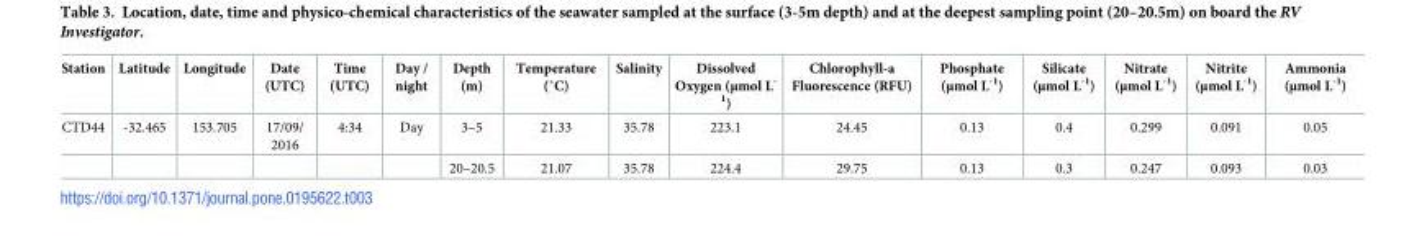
<table><thead><tr><td>Station</td><td>Latitude</td><td>Longitude</td><td>Date (UTC)</td><td>Time (UTC)</td><td>Day / night</td><td>Depth (m)</td><td>Temperature (˚C)</td><td>Salinity</td><td>Dissolved Oxygen (μmol L<sup>- 1</sup>)</td><td>Chlorophyll-a Fluorescence (RFU)</td><td>Phosphate (μmol L<sup>-1</sup>)</td><td>Silicate (μmol L<sup>-1</sup>)</td><td>Nitrate (μmol L<sup>-1</sup>)</td><td>Nitrite (μmol L<sup>-1</sup>)</td><td>Ammonia (μmol L<sup>-1</sup>)</td></tr></thead><tbody><tr><td rowspan="2">CTD44</td><td>-32.465</td><td>153.705</td><td>17/09/ 2016</td><td>4:34</td><td>Day</td><td>3–5</td><td>21.33</td><td>35.78</td><td>223.1</td><td>24.45</td><td>0.13</td><td>0.4</td><td>0.299</td><td>0.091</td><td>0.05</td></tr><tr><td></td><td></td><td></td><td></td><td></td><td>20–20.5</td><td>21.07</td><td>35.78</td><td>224.4</td><td>29.75</td><td>0.13</td><td>0.3</td><td>0.247</td><td>0.093</td><td>0.03</td></tr></tbody></table>